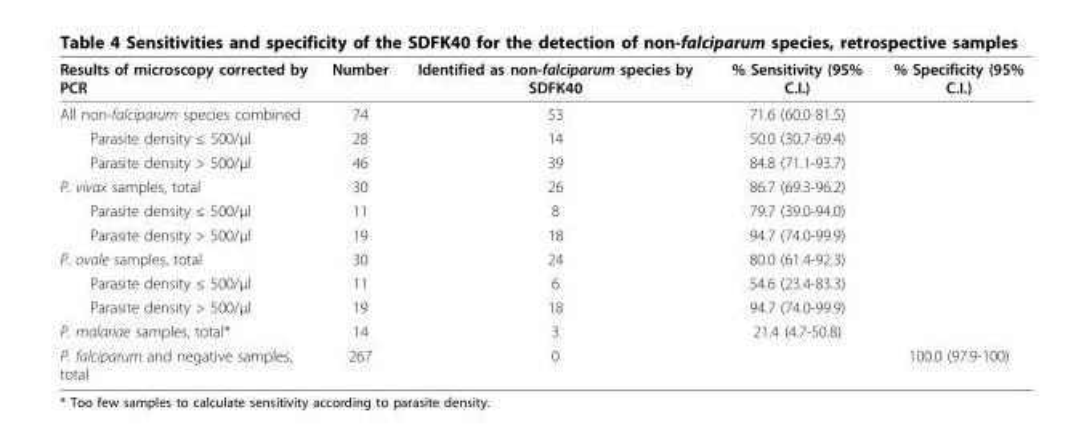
<table><tbody><tr><td>Results of microscopy corrected by PCR</td><td>Number</td><td>Identified as non-falciparum species by SDFK40</td><td>% Sensitivity (95% C.I.)</td><td>% Specificity (95% C.I.)</td></tr><tr><td>All non-falciparum species combined</td><td>74</td><td>53</td><td>71.6 (60.0-81.5)</td><td></td></tr><tr><td>Parasite density ≤ 500/μl</td><td>28</td><td>14</td><td>50.0 (30.7-69.4)</td><td></td></tr><tr><td>Parasite density &gt; 500/μl</td><td>46</td><td>39</td><td>84.8 (71.1-93.7)</td><td></td></tr><tr><td>P. vivax samples, total</td><td>30</td><td>26</td><td>86.7 (69.3-96.2)</td><td></td></tr><tr><td>Parasite density ≤ 500/μl</td><td>11</td><td>8</td><td>79.7 (39.0-94.0)</td><td></td></tr><tr><td>Parasite density &gt; 500/μl</td><td>19</td><td>18</td><td>94.7 (74.0-99.9)</td><td></td></tr><tr><td>P. ovale samples, total</td><td>30</td><td>24</td><td>80.0 (61.4-92.3)</td><td></td></tr><tr><td>Parasite density ≤ 500/μl</td><td>11</td><td>6</td><td>54.6 (23.4-83.3)</td><td></td></tr><tr><td>Parasite density &gt; 500/μl</td><td>19</td><td>18</td><td>94.7 (74.0-99.9)</td><td></td></tr><tr><td>P. malariae samples, total*</td><td>14</td><td>3</td><td>21.4 (4.7-50.8)</td><td></td></tr><tr><td>P. falciparum and negative samples, total</td><td>267</td><td>0</td><td></td><td>100.0 (97.9-100)</td></tr></tbody></table>